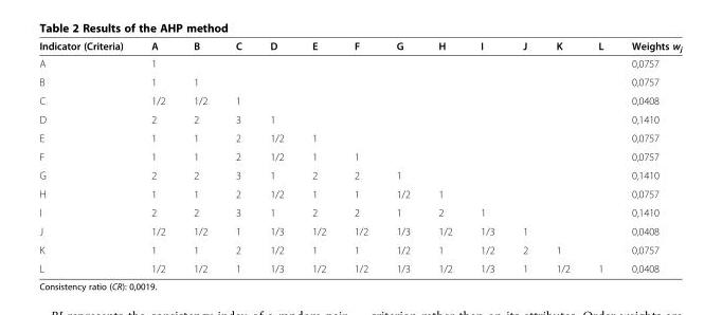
<table><thead><tr><td>Indicator (Criteria)</td><td>A</td><td>B</td><td>C</td><td>D</td><td>E</td><td>F</td><td>G</td><td>H</td><td>I</td><td>J</td><td>K</td><td>L</td><td>Weights w<sub>j</sub></td></tr></thead><tbody><tr><td>A</td><td>1</td><td></td><td></td><td></td><td></td><td></td><td></td><td></td><td></td><td></td><td></td><td></td><td>0,0757</td></tr><tr><td>B</td><td>1</td><td>1</td><td></td><td></td><td></td><td></td><td></td><td></td><td></td><td></td><td></td><td></td><td>0,0757</td></tr><tr><td>C</td><td>1/2</td><td>1/2</td><td>1</td><td></td><td></td><td></td><td></td><td></td><td></td><td></td><td></td><td></td><td>0,0408</td></tr><tr><td>D</td><td>2</td><td>2</td><td>3</td><td>1</td><td></td><td></td><td></td><td></td><td></td><td></td><td></td><td></td><td>0,1410</td></tr><tr><td>E</td><td>1</td><td>1</td><td>2</td><td>1/2</td><td>1</td><td></td><td></td><td></td><td></td><td></td><td></td><td></td><td>0,0757</td></tr><tr><td>F</td><td>1</td><td>1</td><td>2</td><td>1/2</td><td>1</td><td>1</td><td></td><td></td><td></td><td></td><td></td><td></td><td>0,0757</td></tr><tr><td>G</td><td>2</td><td>2</td><td>3</td><td>1</td><td>2</td><td>2</td><td>1</td><td></td><td></td><td></td><td></td><td></td><td>0,1410</td></tr><tr><td>H</td><td>1</td><td>1</td><td>2</td><td>1/2</td><td>1</td><td>1</td><td>1/2</td><td>1</td><td></td><td></td><td></td><td></td><td>0,0757</td></tr><tr><td>I</td><td>2</td><td>2</td><td>3</td><td>1</td><td>2</td><td>2</td><td>1</td><td>2</td><td>1</td><td></td><td></td><td></td><td>0,1410</td></tr><tr><td>J</td><td>1/2</td><td>1/2</td><td>1</td><td>1/3</td><td>1/2</td><td>1/2</td><td>1/3</td><td>1/2</td><td>1/3</td><td>1</td><td></td><td></td><td>0,0408</td></tr><tr><td>K</td><td>1</td><td>1</td><td>2</td><td>1/2</td><td>1</td><td>1</td><td>1/2</td><td>1</td><td>1/2</td><td>2</td><td>1</td><td></td><td>0,0757</td></tr><tr><td>L</td><td>1/2</td><td>1/2</td><td>1</td><td>1/3</td><td>1/2</td><td>1/2</td><td>1/3</td><td>1/2</td><td>1/3</td><td>1</td><td>1/2</td><td>1</td><td>0,0408</td></tr></tbody></table>